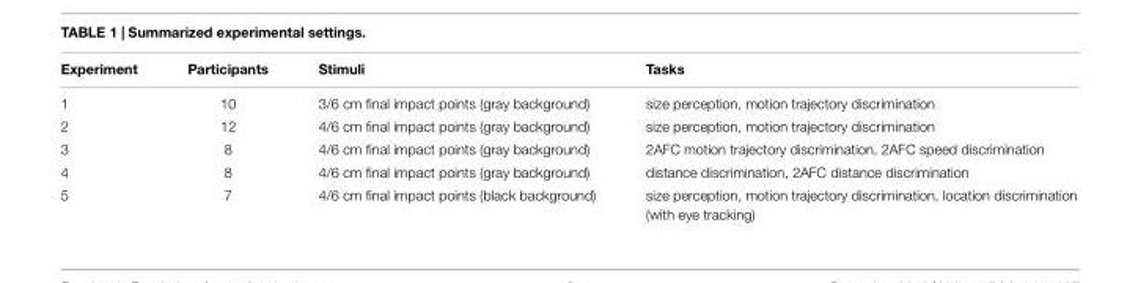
<table><thead><tr><td>Experiment</td><td>Participants</td><td>Stimuli</td><td>Tasks</td></tr></thead><tbody><tr><td>1</td><td>10</td><td>3/6 cm final impact points (gray background)</td><td>size perception, motion trajectory discrimination</td></tr><tr><td>2</td><td>12</td><td>4/6 cm final impact points (gray background)</td><td>size perception, motion trajectory discrimination</td></tr><tr><td>3</td><td>8</td><td>4/6 cm final impact points (gray background)</td><td>2AFC motion trajectory discrimination, 2AFC speed discrimination</td></tr><tr><td>4</td><td>8</td><td>4/6 cm final impact points (gray background)</td><td>distance discrimination, 2AFC distance discrimination</td></tr><tr><td>5</td><td>7</td><td>4/6 cm final impact points (black background)</td><td>size perception, motion trajectory discrimination, location discrimination (with eye tracking)</td></tr></tbody></table>